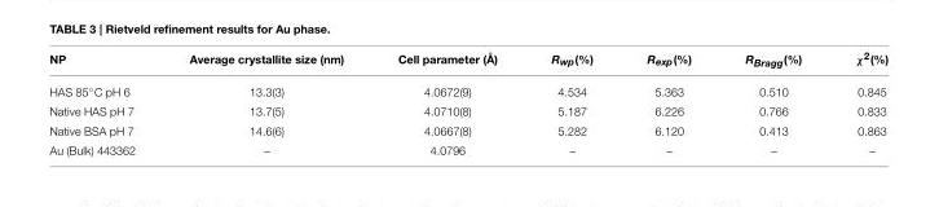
<table><thead><tr><td>NP</td><td>Average crystallite size (nm)</td><td>Cell parameter (Å)</td><td>Rwp(%)</td><td>Rexp(%)</td><td>RBragg(%)</td><td>χ<sup>2</sup>(%)</td></tr></thead><tbody><tr><td>HAS 85◦C pH 6</td><td>13.3(3)</td><td>4.0672(9)</td><td>4.534</td><td>5.363</td><td>0.510</td><td>0.845</td></tr><tr><td>Native HAS pH 7</td><td>13.7(5)</td><td>4.0710(8)</td><td>5.187</td><td>6.226</td><td>0.766</td><td>0.833</td></tr><tr><td>Native BSA pH 7</td><td>14.6(6)</td><td>4.0667(8)</td><td>5.282</td><td>6.120</td><td>0.413</td><td>0.863</td></tr><tr><td>Au (Bulk) 443362</td><td>–</td><td>4.0796</td><td>–</td><td>–</td><td>–</td><td>–</td></tr></tbody></table>